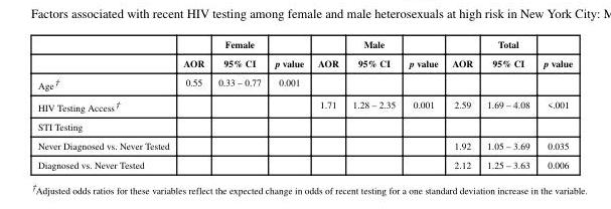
<table><thead><tr><td rowspan="2"></td><td rowspan="2">AOR</td><td rowspan="2">Female 95% CI</td><td rowspan="2">p value</td><td rowspan="2">AOR</td><td rowspan="2">Male 95% CI</td><td rowspan="2">p value</td><td rowspan="2">AOR</td><td rowspan="2">Total 95% CI</td><td rowspan="2">p value</td></tr><tr></tr></thead><tbody><tr><td>Age†</td><td>0.55</td><td>0.33 – 0.77</td><td>0.001</td><td></td><td></td><td></td><td></td><td></td><td></td></tr><tr><td>HIV Testing Access†</td><td></td><td></td><td></td><td>1.71</td><td>1.28 – 2.35</td><td>0.001</td><td>2.59</td><td>1.69 – 4.08</td><td>&lt;.001</td></tr><tr><td colspan="10">STI Testing</td></tr><tr><td>Never Diagnosed vs. Never Tested</td><td></td><td></td><td></td><td></td><td></td><td></td><td>1.92</td><td>1.05 – 3.69</td><td>0.035</td></tr><tr><td>Diagnosed vs. Never Tested</td><td></td><td></td><td></td><td></td><td></td><td></td><td>2.12</td><td>1.25 – 3.63</td><td>0.006</td></tr></tbody></table>